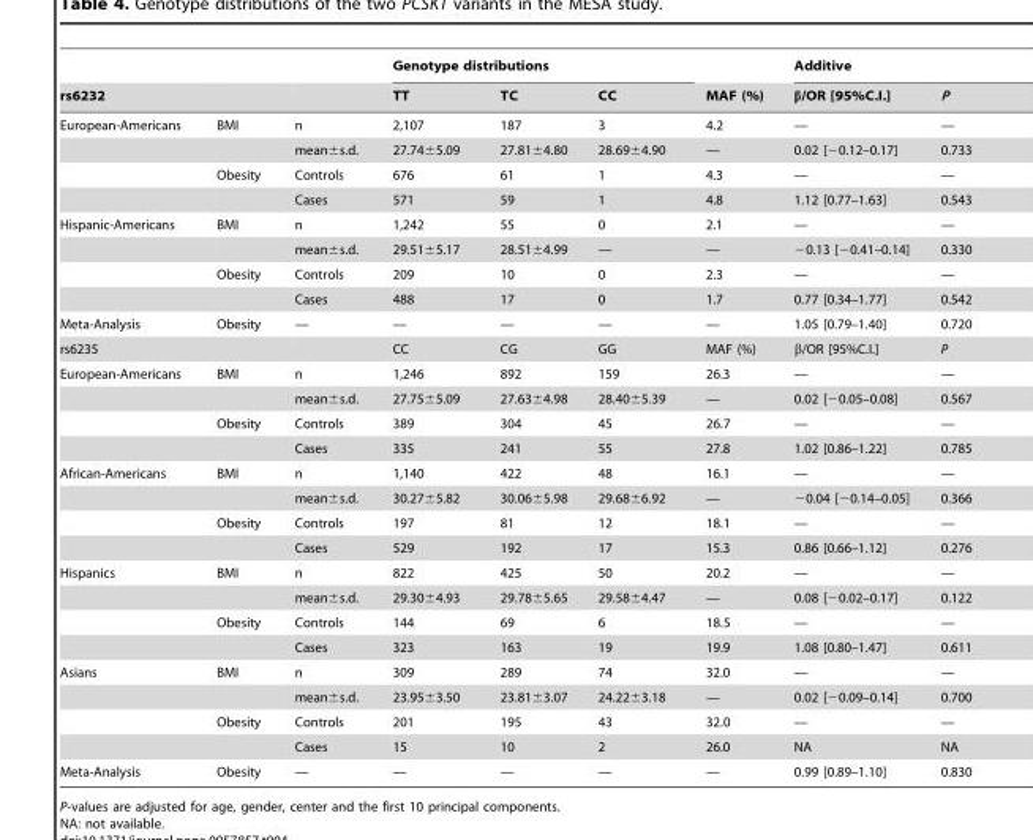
<table><thead><tr><td rowspan="2">rs6232</td><td rowspan="2"></td><td rowspan="2"></td><td colspan="3">Genotype distributions</td><td rowspan="2">MAF (%)</td><td colspan="2">Additive</td></tr><tr><td>TT</td><td>TC</td><td>CC</td><td>β/OR [95%C.I.]</td><td>P</td></tr></thead><tbody><tr><td rowspan="4">European-Americans</td><td>BMI</td><td>n</td><td>2,107</td><td>187</td><td>3</td><td>4.2</td><td>—</td><td>—</td></tr><tr><td></td><td>mean±s.d.</td><td>27.74±5.09</td><td>27.81±4.80</td><td>28.69±4.90</td><td>—</td><td>0.02 [−0.12–0.17]</td><td>0.733</td></tr><tr><td>Obesity</td><td>Controls</td><td>676</td><td>61</td><td>1</td><td>4.3</td><td>—</td><td>—</td></tr><tr><td></td><td>Cases</td><td>571</td><td>59</td><td>1</td><td>4.8</td><td>1.12 [0.77–1.63]</td><td>0.543</td></tr><tr><td rowspan="4">Hispanic-Americans</td><td>BMI</td><td>n</td><td>1,242</td><td>55</td><td>0</td><td>2.1</td><td>—</td><td>—</td></tr><tr><td></td><td>mean±s.d.</td><td>29.51±5.17</td><td>28.51±4.99</td><td>—</td><td>—</td><td>−0.13 [−0.41–0.14]</td><td>0.330</td></tr><tr><td>Obesity</td><td>Controls</td><td>209</td><td>10</td><td>0</td><td>2.3</td><td>—</td><td>—</td></tr><tr><td></td><td>Cases</td><td>488</td><td>17</td><td>0</td><td>1.7</td><td>0.77 [0.34–1.77]</td><td>0.542</td></tr><tr><td>Meta-Analysis</td><td>Obesity</td><td>—</td><td>—</td><td>—</td><td>—</td><td>—</td><td>1.05 [0.79–1.40]</td><td>0.720</td></tr><tr><td>rs6235</td><td></td><td></td><td>CC</td><td>CG</td><td>GG</td><td>MAF (%)</td><td>β/OR [95%C.I.]</td><td>P</td></tr><tr><td rowspan="4">European-Americans</td><td>BMI</td><td>n</td><td>1,246</td><td>892</td><td>159</td><td>26.3</td><td>—</td><td>—</td></tr><tr><td></td><td>mean±s.d.</td><td>27.75±5.09</td><td>27.63±4.98</td><td>28.40±5.39</td><td>—</td><td>0.02 [−0.05–0.08]</td><td>0.567</td></tr><tr><td>Obesity</td><td>Controls</td><td>389</td><td>304</td><td>45</td><td>26.7</td><td>—</td><td>—</td></tr><tr><td></td><td>Cases</td><td>335</td><td>241</td><td>55</td><td>27.8</td><td>1.02 [0.86–1.22]</td><td>0.785</td></tr><tr><td rowspan="4">African-Americans</td><td>BMI</td><td>n</td><td>1,140</td><td>422</td><td>48</td><td>16.1</td><td>—</td><td>—</td></tr><tr><td></td><td>mean±s.d.</td><td>30.27±5.82</td><td>30.06±5.98</td><td>29.68±6.92</td><td>—</td><td>−0.04 [−0.14–0.05]</td><td>0.366</td></tr><tr><td>Obesity</td><td>Controls</td><td>197</td><td>81</td><td>12</td><td>18.1</td><td>—</td><td>—</td></tr><tr><td></td><td>Cases</td><td>529</td><td>192</td><td>17</td><td>15.3</td><td>0.86 [0.66–1.12]</td><td>0.276</td></tr><tr><td rowspan="4">Hispanics</td><td>BMI</td><td>n</td><td>822</td><td>425</td><td>50</td><td>20.2</td><td>—</td><td>—</td></tr><tr><td></td><td>mean±s.d.</td><td>29.30±4.93</td><td>29.78±5.65</td><td>29.58±4.47</td><td>—</td><td>0.08 [−0.02–0.17]</td><td>0.122</td></tr><tr><td>Obesity</td><td>Controls</td><td>144</td><td>69</td><td>6</td><td>18.5</td><td>—</td><td>—</td></tr><tr><td></td><td>Cases</td><td>323</td><td>163</td><td>19</td><td>19.9</td><td>1.08 [0.80–1.47]</td><td>0.611</td></tr><tr><td rowspan="4">Asians</td><td>BMI</td><td>n</td><td>309</td><td>289</td><td>74</td><td>32.0</td><td>—</td><td>—</td></tr><tr><td></td><td>mean±s.d.</td><td>23.95±3.50</td><td>23.81±3.07</td><td>24.22±3.18</td><td>—</td><td>0.02 [−0.09–0.14]</td><td>0.700</td></tr><tr><td>Obesity</td><td>Controls</td><td>201</td><td>195</td><td>43</td><td>32.0</td><td>—</td><td>—</td></tr><tr><td></td><td>Cases</td><td>15</td><td>10</td><td>2</td><td>26.0</td><td>NA</td><td>NA</td></tr><tr><td>Meta-Analysis</td><td>Obesity</td><td>—</td><td>—</td><td>—</td><td>—</td><td>—</td><td>0.99 [0.89–1.10]</td><td>0.830</td></tr></tbody></table>